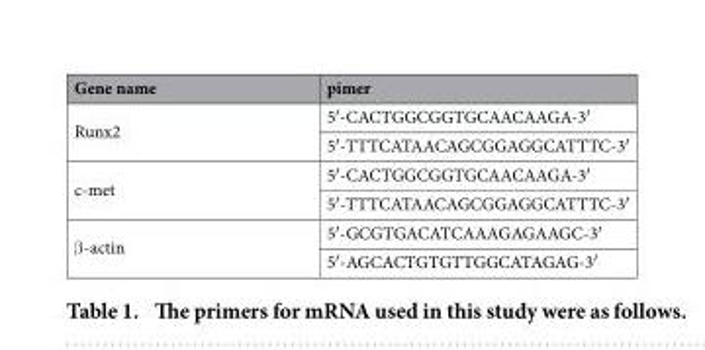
<table><thead><tr><td>Gene name</td><td>pimer</td></tr></thead><tbody><tr><td rowspan="2">Runx2</td><td>5′-CACTGGCGGTGCAACAAGA-3′</td></tr><tr><td>5′-TTTCATAACAGCGGAGGCATTTC-3′</td></tr><tr><td rowspan="2">c-met</td><td>5′-CACTGGCGGTGCAACAAGA-3′</td></tr><tr><td>5′-TTTCATAACAGCGGAGGCATTTC-3′</td></tr><tr><td rowspan="2">β -actin</td><td>5′-GCGTGACATCAAAGAGAAGC-3′</td></tr><tr><td>5′-AGCACTGTGTTGGCATAGAG-3′</td></tr></tbody></table>